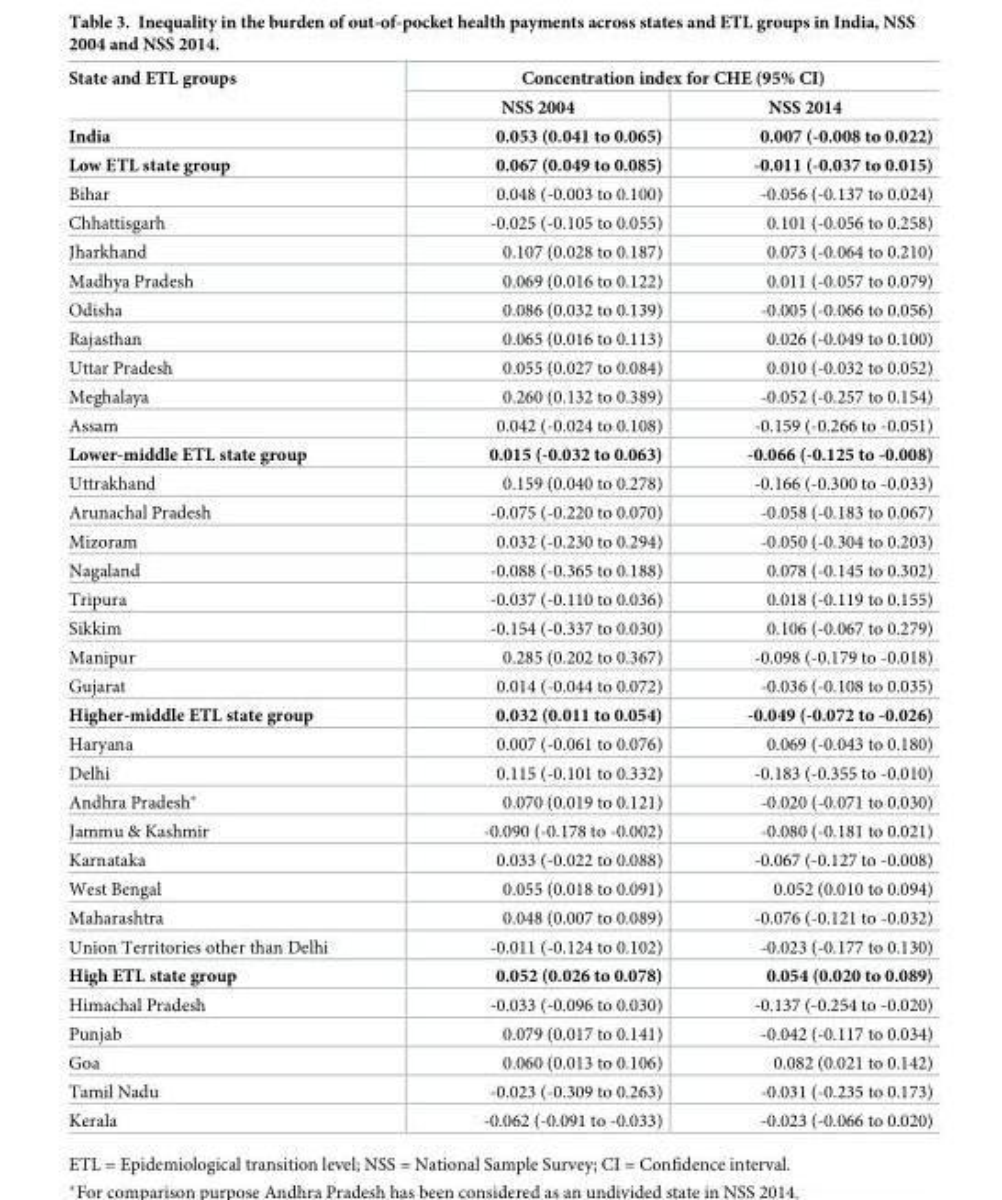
<table><thead><tr><td rowspan="2">State and ETL groups</td><td colspan="2">Concentration index for CHE (95% CI)</td></tr><tr><td>NSS 2004</td><td>NSS 2014</td></tr></thead><tbody><tr><td>India</td><td>0.053 (0.041 to 0.065)</td><td>0.007 (-0.008 to 0.022)</td></tr><tr><td>Low ETL state group</td><td>0.067 (0.049 to 0.085)</td><td>-0.011 (-0.037 to 0.015)</td></tr><tr><td>Bihar</td><td>0.048 (-0.003 to 0.100)</td><td>-0.056 (-0.137 to 0.024)</td></tr><tr><td>Chhattisgarh</td><td>-0.025 (-0.105 to 0.055)</td><td>0.101 (-0.056 to 0.258)</td></tr><tr><td>Jharkhand</td><td>0.107 (0.028 to 0.187)</td><td>0.073 (-0.064 to 0.210)</td></tr><tr><td>Madhya Pradesh</td><td>0.069 (0.016 to 0.122)</td><td>0.011 (-0.057 to 0.079)</td></tr><tr><td>Odisha</td><td>0.086 (0.032 to 0.139)</td><td>-0.005 (-0.066 to 0.056)</td></tr><tr><td>Rajasthan</td><td>0.065 (0.016 to 0.113)</td><td>0.026 (-0.049 to 0.100)</td></tr><tr><td>Uttar Pradesh</td><td>0.055 (0.027 to 0.084)</td><td>0.010 (-0.032 to 0.052)</td></tr><tr><td>Meghalaya</td><td>0.260 (0.132 to 0.389)</td><td>-0.052 (-0.257 to 0.154)</td></tr><tr><td>Assam</td><td>0.042 (-0.024 to 0.108)</td><td>-0.159 (-0.266 to -0.051)</td></tr><tr><td>Lower-middle ETL state group</td><td>0.015 (-0.032 to 0.063)</td><td>-0.066 (-0.125 to -0.008)</td></tr><tr><td>Uttrakhand</td><td>0.159 (0.040 to 0.278)</td><td>-0.166 (-0.300 to -0.033)</td></tr><tr><td>Arunachal Pradesh</td><td>-0.075 (-0.220 to 0.070)</td><td>-0.058 (-0.183 to 0.067)</td></tr><tr><td>Mizoram</td><td>0.032 (-0.230 to 0.294)</td><td>-0.050 (-0.304 to 0.203)</td></tr><tr><td>Nagaland</td><td>-0.088 (-0.365 to 0.188)</td><td>0.078 (-0.145 to 0.302)</td></tr><tr><td>Tripura</td><td>-0.037 (-0.110 to 0.036)</td><td>0.018 (-0.119 to 0.155)</td></tr><tr><td>Sikkim</td><td>-0.154 (-0.337 to 0.030)</td><td>0.106 (-0.067 to 0.279)</td></tr><tr><td>Manipur</td><td>0.285 (0.202 to 0.367)</td><td>-0.098 (-0.179 to -0.018)</td></tr><tr><td>Gujarat</td><td>0.014 (-0.044 to 0.072)</td><td>-0.036 (-0.108 to 0.035)</td></tr><tr><td>Higher-middle ETL state group</td><td>0.032 (0.011 to 0.054)</td><td>-0.049 (-0.072 to -0.026)</td></tr><tr><td>Haryana</td><td>0.007 (-0.061 to 0.076)</td><td>0.069 (-0.043 to 0.180)</td></tr><tr><td>Delhi</td><td>0.115 (-0.101 to 0.332)</td><td>-0.183 (-0.355 to -0.010)</td></tr><tr><td>Andhra Pradesh*</td><td>0.070 (0.019 to 0.121)</td><td>-0.020 (-0.071 to 0.030)</td></tr><tr><td>Jammu &amp; Kashmir</td><td>-0.090 (-0.178 to -0.002)</td><td>-0.080 (-0.181 to 0.021)</td></tr><tr><td>Karnataka</td><td>0.033 (-0.022 to 0.088)</td><td>-0.067 (-0.127 to -0.008)</td></tr><tr><td>West Bengal</td><td>0.055 (0.018 to 0.091)</td><td>0.052 (0.010 to 0.094)</td></tr><tr><td>Maharashtra</td><td>0.048 (0.007 to 0.089)</td><td>-0.076 (-0.121 to -0.032)</td></tr><tr><td>Union Territories other than Delhi</td><td>-0.011 (-0.124 to 0.102)</td><td>-0.023 (-0.177 to 0.130)</td></tr><tr><td>High ETL state group</td><td>0.052 (0.026 to 0.078)</td><td>0.054 (0.020 to 0.089)</td></tr><tr><td>Himachal Pradesh</td><td>-0.033 (-0.096 to 0.030)</td><td>-0.137 (-0.254 to -0.020)</td></tr><tr><td>Punjab</td><td>0.079 (0.017 to 0.141)</td><td>-0.042 (-0.117 to 0.034)</td></tr><tr><td>Goa</td><td>0.060 (0.013 to 0.106)</td><td>0.082 (0.021 to 0.142)</td></tr><tr><td>Tamil Nadu</td><td>-0.023 (-0.309 to 0.263)</td><td>-0.031 (-0.235 to 0.173)</td></tr><tr><td>Kerala</td><td>-0.062 (-0.091 to -0.033)</td><td>-0.023 (-0.066 to 0.020)</td></tr></tbody></table>